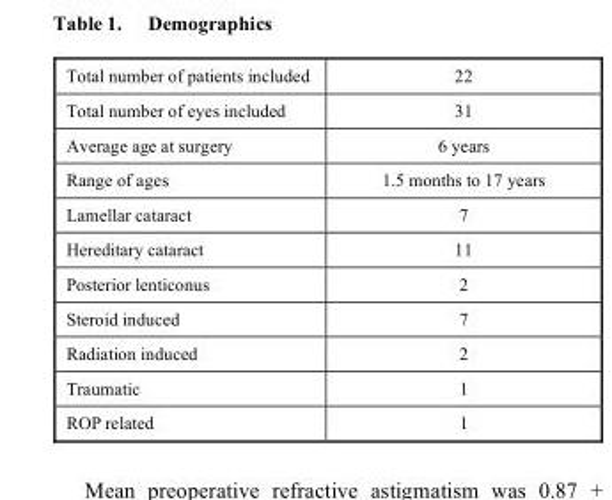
<table><tbody><tr><td>Total number of patients included</td><td>22</td></tr><tr><td>Total number of eyes included</td><td>31</td></tr><tr><td>Average age at surgery</td><td>6 years</td></tr><tr><td>Range of ages</td><td>1.5 months to 17 years</td></tr><tr><td>Lamellar cataract</td><td>7</td></tr><tr><td>Hereditary cataract</td><td>11</td></tr><tr><td>Posterior lenticonus</td><td>2</td></tr><tr><td>Steroid induced</td><td>7</td></tr><tr><td>Radiation induced</td><td>2</td></tr><tr><td>Traumatic</td><td>1</td></tr><tr><td>ROP related</td><td>1</td></tr></tbody></table>